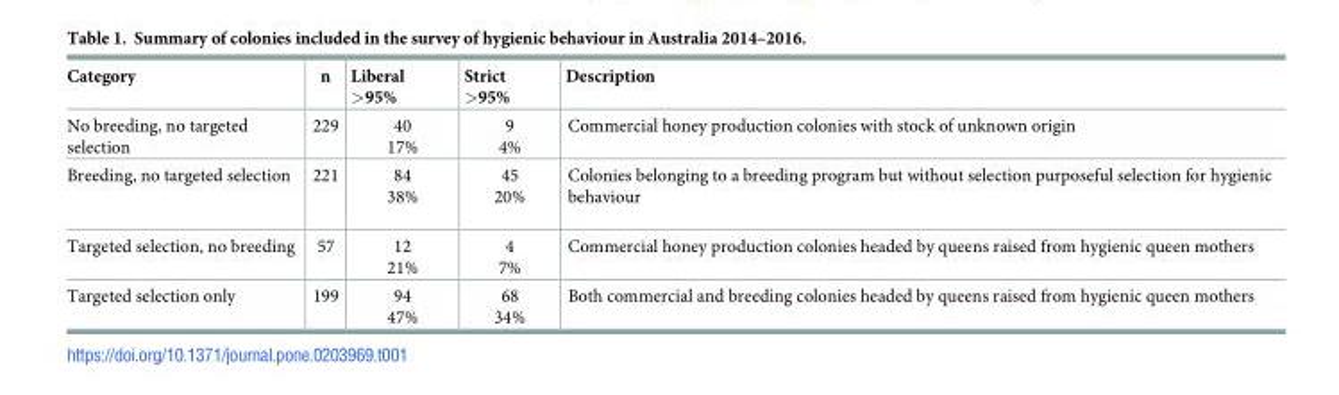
<table><thead><tr><td>Category</td><td>n</td><td>Liberal &gt;95%</td><td>Strict &gt;95%</td><td>Description</td></tr></thead><tbody><tr><td>No breeding, no targeted selection</td><td>229</td><td>40 17%</td><td>9 4%</td><td>Commercial honey production colonies with stock of unknown origin</td></tr><tr><td>Breeding, no targeted selection</td><td>221</td><td>84 38%</td><td>45 20%</td><td>Colonies belonging to a breeding program but without selection purposeful selection for hygienic behaviour</td></tr><tr><td>Targeted selection, no breeding</td><td>57</td><td>12 21%</td><td>4 7%</td><td>Commercial honey production colonies headed by queens raised from hygienic queen mothers</td></tr><tr><td>Targeted selection only</td><td>199</td><td>94 47%</td><td>68 34%</td><td>Both commercial and breeding colonies headed by queens raised from hygienic queen mothers</td></tr></tbody></table>